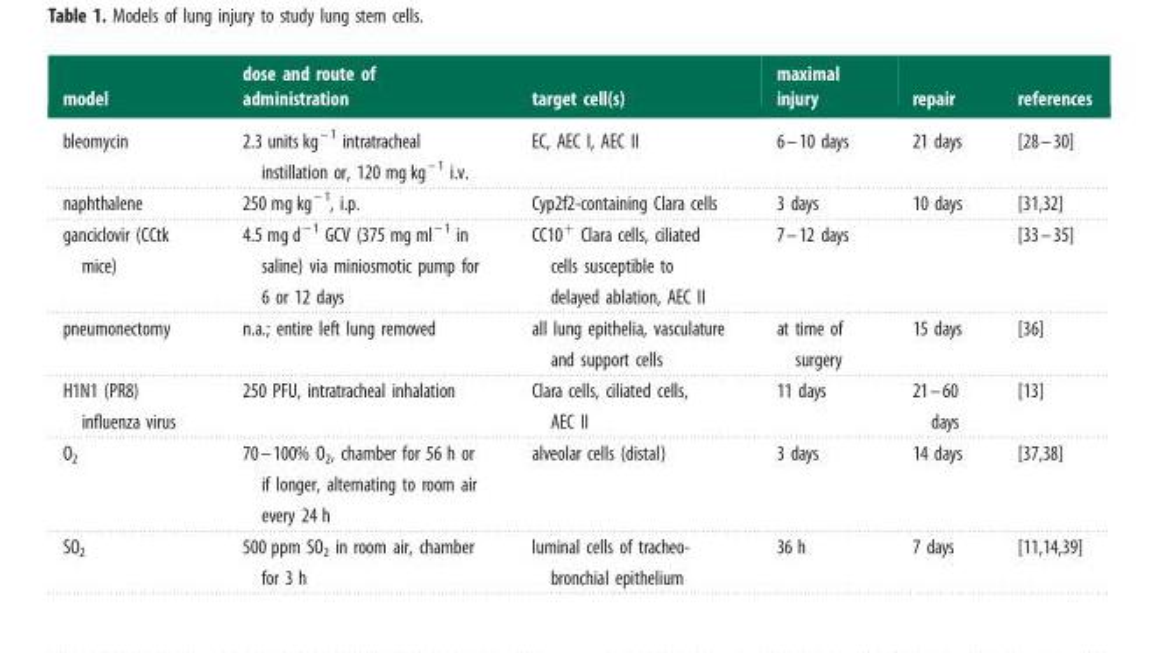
<table><thead><tr><td>model</td><td>dose and route of administration</td><td>target cell(s)</td><td>maximal injury</td><td>repair</td><td>references</td></tr></thead><tbody><tr><td>bleomycin</td><td>2.3 units kg<sup>–1</sup> intratracheal instillation or, 120 mg kg<sup>–1</sup> i.v.</td><td>EC, AEC I, AEC II</td><td>6–10 days</td><td>21 days</td><td>[28–30]</td></tr><tr><td>naphthalene</td><td>250 mg kg<sup>–1</sup>, i.p.</td><td>Cyp2f2-containing Clara cells</td><td>3 days</td><td>10 days</td><td>[31,32]</td></tr><tr><td>ganciclovir (CCtk mice)</td><td>4.5 mg d<sup>–1</sup> GCV (375 mg ml<sup>–1</sup> in saline) via miniosmotic pump for 6 or 12 days</td><td>CC10<sup>+</sup> Clara cells, ciliated cells susceptible to delayed ablation, AEC II</td><td>7–12 days</td><td></td><td>[33–35]</td></tr><tr><td>pneumonectomy</td><td>n.a.; entire left lung removed</td><td>all lung epithelia, vasculature and support cells</td><td>at time of surgery</td><td>15 days</td><td>[36]</td></tr><tr><td>H1N1 (PR8) influenza virus</td><td>250 PFU, intratracheal inhalation</td><td>Clara cells, ciliated cells, AEC II</td><td>11 days</td><td>21–60 days</td><td>[13]</td></tr><tr><td>O<sub>2</sub></td><td>70–100% O<sub>2</sub>, chamber for 56 h or if longer, alternating to room air every 24 h</td><td>alveolar cells (distal)</td><td>3 days</td><td>14 days</td><td>[37,38]</td></tr><tr><td>SO<sub>2</sub></td><td>500 ppm SO<sub>2</sub> in room air, chamber for 3 h</td><td>luminal cells of tracheo- bronchial epithelium</td><td>36 h</td><td>7 days</td><td>[11,14,39]</td></tr></tbody></table>